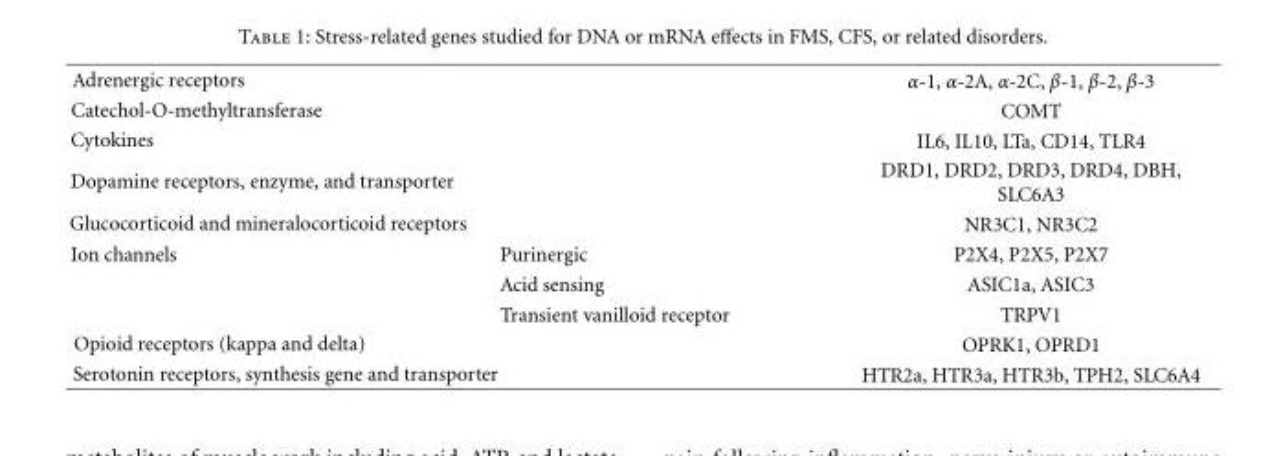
<table><tbody><tr><td>Adrenergic receptors</td><td></td><td>α-1, α-2A, α-2C, β-1, β-2, β-3</td></tr><tr><td>Catechol-O-methyltransferase</td><td></td><td>COMT</td></tr><tr><td>Cytokines</td><td></td><td>IL6, IL10, LTa, CD14, TLR4</td></tr><tr><td>Dopamine receptors, enzyme, and transporter</td><td></td><td>DRD1, DRD2, DRD3, DRD4, DBH, SLC6A3</td></tr><tr><td>Glucocorticoid and mineralocorticoid receptors</td><td></td><td>NR3C1, NR3C2</td></tr><tr><td rowspan="3">Ion channels</td><td>Purinergic</td><td>P2X4, P2X5, P2X7</td></tr><tr><td>Acid sensing</td><td>ASIC1a, ASIC3</td></tr><tr><td>Transient vanilloid receptor</td><td>TRPV1</td></tr><tr><td>Opioid receptors (kappa and delta)</td><td></td><td>OPRK1, OPRD1</td></tr><tr><td>Serotonin receptors, synthesis gene and transporter</td><td></td><td>HTR2a, HTR3a, HTR3b, TPH2, SLC6A4</td></tr></tbody></table>